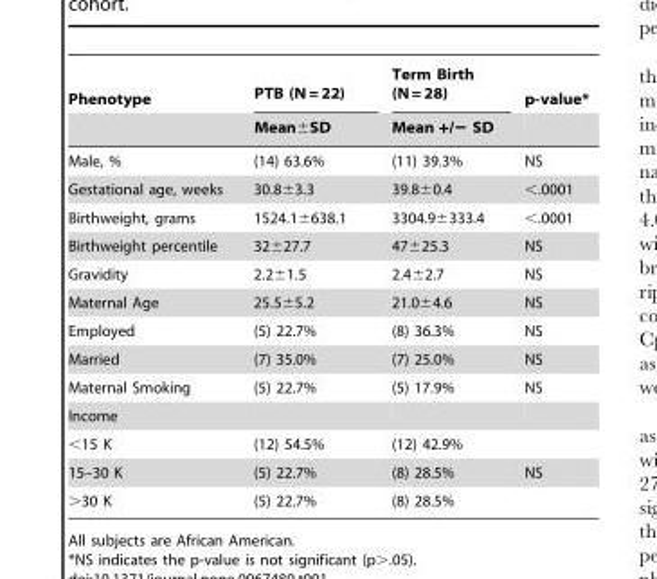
<table><thead><tr><td rowspan="2">Phenotype</td><td rowspan="2">PTB (N = 22) Mean±SD</td><td rowspan="2">Term Birth (N = 28) Mean +/− SD</td><td rowspan="2">p-value*</td></tr><tr></tr></thead><tbody><tr><td>Male, %</td><td>(14) 63.6%</td><td>(11) 39.3%</td><td>NS</td></tr><tr><td>Gestational age, weeks</td><td>30.8±3.3</td><td>39.8±0.4</td><td>&lt;.0001</td></tr><tr><td>Birthweight, grams</td><td>1524.1±638.1</td><td>3304.9±333.4</td><td>&lt;.0001</td></tr><tr><td>Birthweight percentile</td><td>32±27.7</td><td>47±25.3</td><td>NS</td></tr><tr><td>Gravidity</td><td>2.2±1.5</td><td>2.4±2.7</td><td>NS</td></tr><tr><td>Maternal Age</td><td>25.5±5.2</td><td>21.0±4.6</td><td>NS</td></tr><tr><td>Employed</td><td>(5) 22.7%</td><td>(8) 36.3%</td><td>NS</td></tr><tr><td>Married</td><td>(7) 35.0%</td><td>(7) 25.0%</td><td>NS</td></tr><tr><td>Maternal Smoking</td><td>(5) 22.7%</td><td>(5) 17.9%</td><td>NS</td></tr><tr><td colspan="4">Income</td></tr><tr><td>&lt;15 K</td><td>(12) 54.5%</td><td>(12) 42.9%</td><td></td></tr><tr><td>15–30 K</td><td>(5) 22.7%</td><td>(8) 28.5%</td><td>NS</td></tr><tr><td>&gt;30 K</td><td>(5) 22.7%</td><td>(8) 28.5%</td><td></td></tr></tbody></table>